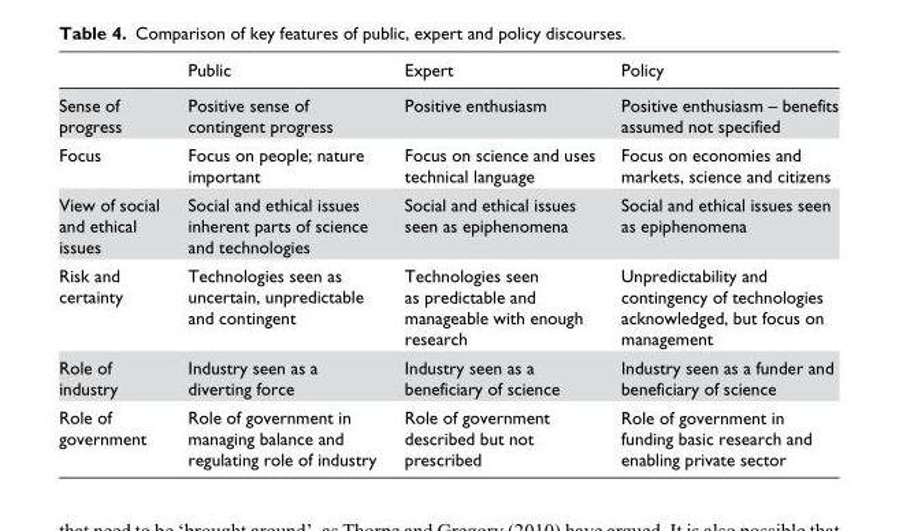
<table><thead><tr><td></td><td>Public</td><td>Expert</td><td>Policy</td></tr></thead><tbody><tr><td>Sense of progress</td><td>Positive sense of contingent progress</td><td>Positive enthusiasm</td><td>Positive enthusiasm – benefits assumed not specified</td></tr><tr><td>Focus</td><td>Focus on people; nature important</td><td>Focus on science and uses technical language</td><td>Focus on economies and markets, science and citizens</td></tr><tr><td>View of social and ethical issues</td><td>Social and ethical issues inherent parts of science and technologies</td><td>Social and ethical issues seen as epiphenomena</td><td>Social and ethical issues seen as epiphenomena</td></tr><tr><td>Risk and certainty</td><td>Technologies seen as uncertain, unpredictable and contingent</td><td>Technologies seen as predictable and manageable with enough research</td><td>Unpredictability and contingency of technologies acknowledged, but focus on management</td></tr><tr><td>Role of industry</td><td>Industry seen as a diverting force</td><td>Industry seen as a beneficiary of science</td><td>Industry seen as a funder and beneficiary of science</td></tr><tr><td>Role of government</td><td>Role of government in managing balance and regulating role of industry</td><td>Role of government described but not prescribed</td><td>Role of government in funding basic research and enabling private sector</td></tr></tbody></table>